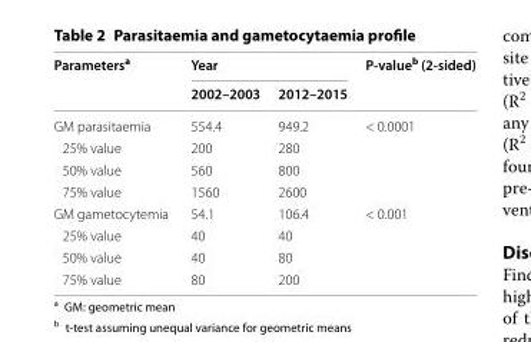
<table><thead><tr><td rowspan="2">Parameters<sup>a</sup></td><td colspan="2">Year</td><td rowspan="2">P‑value<sup>b</sup> (2‑sided)</td></tr><tr><td>2002–2003</td><td>2012–2015</td></tr></thead><tbody><tr><td>GM parasitaemia</td><td>554.4</td><td>949.2</td><td>&lt; 0.0001</td></tr><tr><td>25% value</td><td>200</td><td>280</td><td></td></tr><tr><td>50% value</td><td>560</td><td>800</td><td></td></tr><tr><td>75% value</td><td>1560</td><td>2600</td><td></td></tr><tr><td>GM gametocytemia</td><td>54.1</td><td>106.4</td><td>&lt; 0.001</td></tr><tr><td>25% value</td><td>40</td><td>40</td><td></td></tr><tr><td>50% value</td><td>40</td><td>80</td><td></td></tr><tr><td>75% value</td><td>80</td><td>200</td><td></td></tr></tbody></table>